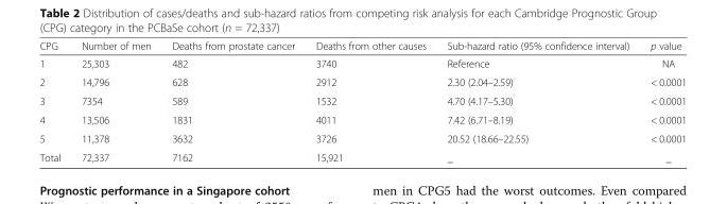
<table><thead><tr><td>CPG</td><td>Number of men</td><td>Deaths from prostate cancer</td><td>Deaths from other causes</td><td>Sub-hazard ratio (95% confidence interval)</td><td>p value</td></tr></thead><tbody><tr><td>1</td><td>25,303</td><td>482</td><td>3740</td><td>Reference</td><td>NA</td></tr><tr><td>2</td><td>14,796</td><td>628</td><td>2912</td><td>2.30 (2.04–2.59)</td><td>&lt; 0.0001</td></tr><tr><td>3</td><td>7354</td><td>589</td><td>1532</td><td>4.70 (4.17–5.30)</td><td>&lt; 0.0001</td></tr><tr><td>4</td><td>13,506</td><td>1831</td><td>4011</td><td>7.42 (6.71–8.19)</td><td>&lt; 0.0001</td></tr><tr><td>5</td><td>11,378</td><td>3632</td><td>3726</td><td>20.52 (18.66–22.55)</td><td>&lt; 0.0001</td></tr><tr><td>Total</td><td>72,337</td><td>7162</td><td>15,921</td><td>_</td><td>_</td></tr></tbody></table>